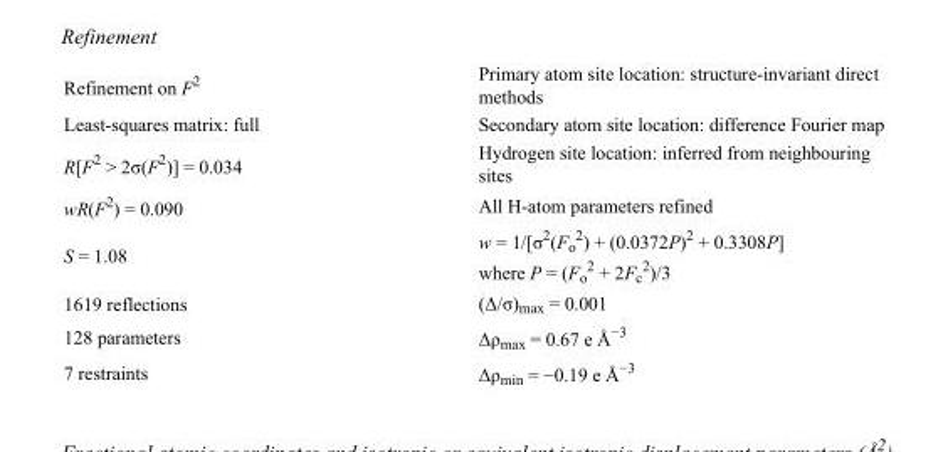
<table><tbody><tr><td>Refinement on F<sup>2</sup></td><td>Primary atom site location: structure-invariant direct methods</td></tr><tr><td>Least-squares matrix: full</td><td>Secondary atom site location: difference Fourier map</td></tr><tr><td>R[F<sup>2</sup> &gt; 2σ(F<sup>2</sup>)] = 0.034</td><td>Hydrogen site location: inferred from neighbouring sites</td></tr><tr><td>wR(F<sup>2</sup>) = 0.090</td><td>All H-atom parameters refined</td></tr><tr><td>S = 1.08</td><td>w = 1/[σ<sup>2</sup>(F<sub>o</sub> <sup>2</sup>) + (0.0372P)<sup>2</sup> + 0.3308P] where P = (F<sub>o</sub> <sup>2</sup> + 2F<sub>c</sub> <sup>2</sup>)/3</td></tr><tr><td>1619 reflections</td><td>(Δ/σ)<sub>max</sub> = 0.001</td></tr><tr><td>128 parameters</td><td>Δρ<sub>max</sub> = 0.67 e Å<sup>−3</sup></td></tr><tr><td>7 restraints</td><td>Δρ<sub>min</sub> = −0.19 e Å<sup>−3</sup></td></tr></tbody></table>